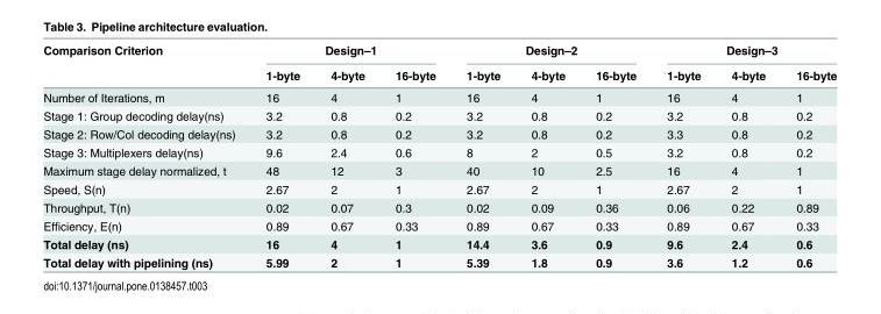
<table><thead><tr><td rowspan="2">Comparison Criterion</td><td colspan="3">Design–1</td><td colspan="3">Design–2</td><td colspan="3">Design–3</td></tr><tr><td>1-byte</td><td>4-byte</td><td>16-byte</td><td>1-byte</td><td>4-byte</td><td>16-byte</td><td>1-byte</td><td>4-byte</td><td>16-byte</td></tr></thead><tbody><tr><td>Number of Iterations, m</td><td>16</td><td>4</td><td>1</td><td>16</td><td>4</td><td>1</td><td>16</td><td>4</td><td>1</td></tr><tr><td>Stage 1: Group decoding delay(ns)</td><td>3.2</td><td>0.8</td><td>0.2</td><td>3.2</td><td>0.8</td><td>0.2</td><td>3.2</td><td>0.8</td><td>0.2</td></tr><tr><td>Stage 2: Row/Col decoding delay(ns)</td><td>3.2</td><td>0.8</td><td>0.2</td><td>3.2</td><td>0.8</td><td>0.2</td><td>3.3</td><td>0.8</td><td>0.2</td></tr><tr><td>Stage 3: Multiplexers delay(ns)</td><td>9.6</td><td>2.4</td><td>0.6</td><td>8</td><td>2</td><td>0.5</td><td>3.2</td><td>0.8</td><td>0.2</td></tr><tr><td>Maximum stage delay normalized, t</td><td>48</td><td>12</td><td>3</td><td>40</td><td>10</td><td>2.5</td><td>16</td><td>4</td><td>1</td></tr><tr><td>Speed, S(n)</td><td>2.67</td><td>2</td><td>1</td><td>2.67</td><td>2</td><td>1</td><td>2.67</td><td>2</td><td>1</td></tr><tr><td>Throughput, T(n)</td><td>0.02</td><td>0.07</td><td>0.3</td><td>0.02</td><td>0.09</td><td>0.36</td><td>0.06</td><td>0.22</td><td>0.89</td></tr><tr><td>Efficiency, E(n)</td><td>0.89</td><td>0.67</td><td>0.33</td><td>0.89</td><td>0.67</td><td>0.33</td><td>0.89</td><td>0.67</td><td>0.33</td></tr><tr><td>Total delay (ns)</td><td>16</td><td>4</td><td>1</td><td>14.4</td><td>3.6</td><td>0.9</td><td>9.6</td><td>2.4</td><td>0.6</td></tr><tr><td>Total delay with pipelining (ns)</td><td>5.99</td><td>2</td><td>1</td><td>5.39</td><td>1.8</td><td>0.9</td><td>3.6</td><td>1.2</td><td>0.6</td></tr></tbody></table>